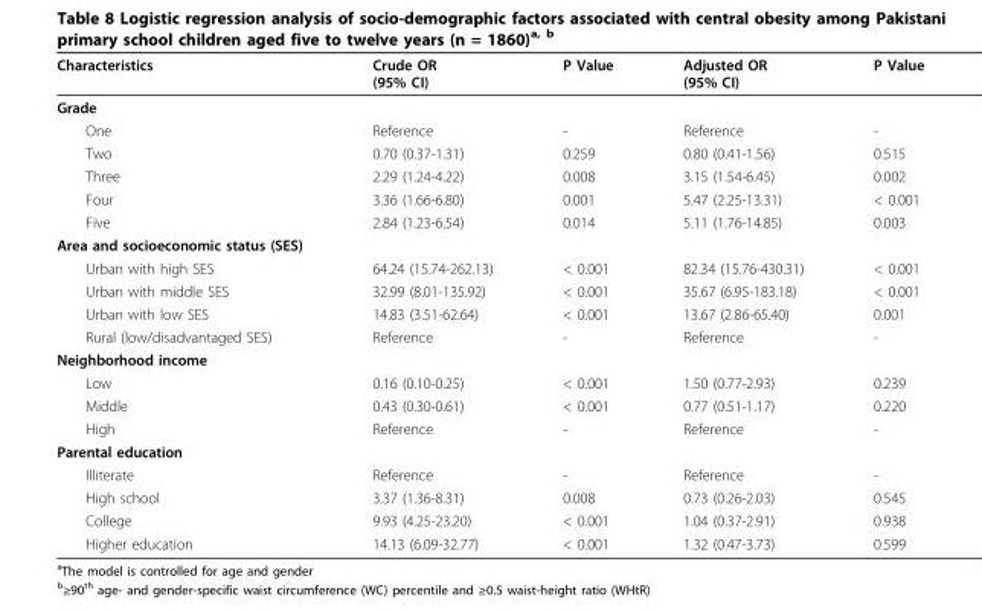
<table><thead><tr><td>Characteristics</td><td>Crude OR (95% CI)</td><td>P Value</td><td>Adjusted OR (95% CI)</td><td>P Value</td></tr></thead><tbody><tr><td colspan="5">Grade</td></tr><tr><td>One</td><td>Reference</td><td>-</td><td>Reference</td><td>-</td></tr><tr><td>Two</td><td>0.70 (0.37-1.31)</td><td>0.259</td><td>0.80 (0.41-1.56)</td><td>0.515</td></tr><tr><td>Three</td><td>2.29 (1.24-4.22)</td><td>0.008</td><td>3.15 (1.54-6.45)</td><td>0.002</td></tr><tr><td>Four</td><td>3.36 (1.66-6.80)</td><td>0.001</td><td>5.47 (2.25-13.31)</td><td>&lt; 0.001</td></tr><tr><td>Five</td><td>2.84 (1.23-6.54)</td><td>0.014</td><td>5.11 (1.76-14.85)</td><td>0.003</td></tr><tr><td colspan="5">Area and socioeconomic status (SES)</td></tr><tr><td>Urban with high SES</td><td>64.24 (15.74-262.13)</td><td>&lt; 0.001</td><td>82.34 (15.76-430.31)</td><td>&lt; 0.001</td></tr><tr><td>Urban with middle SES</td><td>32.99 (8.01-135.92)</td><td>&lt; 0.001</td><td>35.67 (6.95-183.18)</td><td>&lt; 0.001</td></tr><tr><td>Urban with low SES</td><td>14.83 (3.51-62.64)</td><td>&lt; 0.001</td><td>13.67 (2.86-65.40)</td><td>0.001</td></tr><tr><td>Rural (low/disadvantaged SES)</td><td>Reference</td><td>-</td><td>Reference</td><td>-</td></tr><tr><td colspan="5">Neighborhood income</td></tr><tr><td>Low</td><td>0.16 (0.10-0.25)</td><td>&lt; 0.001</td><td>1.50 (0.77-2.93)</td><td>0.239</td></tr><tr><td>Middle</td><td>0.43 (0.30-0.61)</td><td>&lt; 0.001</td><td>0.77 (0.51-1.17)</td><td>0.220</td></tr><tr><td>High</td><td>Reference</td><td>-</td><td>Reference</td><td>-</td></tr><tr><td colspan="5">Parental education</td></tr><tr><td>Illiterate</td><td>Reference</td><td>-</td><td>Reference</td><td>-</td></tr><tr><td>High school</td><td>3.37 (1.36-8.31)</td><td>0.008</td><td>0.73 (0.26-2.03)</td><td>0.545</td></tr><tr><td>College</td><td>9.93 (4.25-23.20)</td><td>&lt; 0.001</td><td>1.04 (0.37-2.91)</td><td>0.938</td></tr><tr><td>Higher education</td><td>14.13 (6.09-32.77)</td><td>&lt; 0.001</td><td>1.32 (0.47-3.73)</td><td>0.599</td></tr></tbody></table>